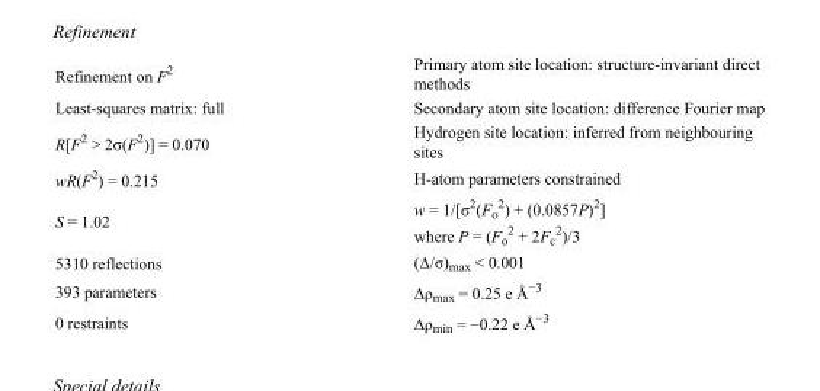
<table><tbody><tr><td>Refinement on F<sup>2</sup></td><td>Primary atom site location: structure-invariant direct methods</td></tr><tr><td>Least-squares matrix: full</td><td>Secondary atom site location: difference Fourier map</td></tr><tr><td>R[F<sup>2</sup> &gt; 2σ(F<sup>2</sup>)] = 0.070</td><td>Hydrogen site location: inferred from neighbouring sites</td></tr><tr><td>wR(F<sup>2</sup>) = 0.215</td><td>H-atom parameters constrained</td></tr><tr><td>S = 1.02</td><td>w = 1/[σ<sup>2</sup>(F<sub>o</sub> <sup>2</sup>) + (0.0857P)<sup>2</sup>] where P = (F<sub>o</sub> <sup>2</sup> + 2F<sub>c</sub> <sup>2</sup>)/3</td></tr><tr><td>5310 reflections</td><td>(Δ/σ)<sub>max</sub> &lt; 0.001</td></tr><tr><td>393 parameters</td><td>Δρ<sub>max</sub> = 0.25 e Å<sup>−3</sup></td></tr><tr><td>0 restraints</td><td>Δρ<sub>min</sub> = −0.22 e Å<sup>−3</sup></td></tr></tbody></table>